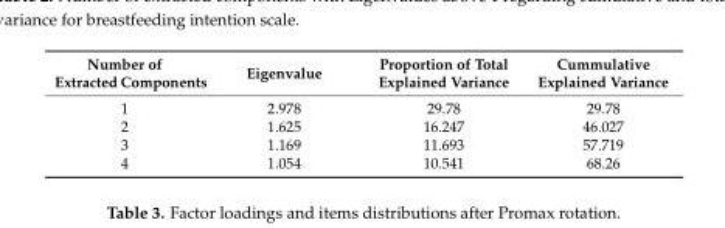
<table><thead><tr><td>Number of Extracted Components</td><td>Eigenvalue</td><td>Proportion of Total Explained Variance</td><td>Cummulative Explained Variance</td></tr></thead><tbody><tr><td>1</td><td>2.978</td><td>29.78</td><td>29.78</td></tr><tr><td>2</td><td>1.625</td><td>16.247</td><td>46.027</td></tr><tr><td>3</td><td>1.169</td><td>11.693</td><td>57.719</td></tr><tr><td>4</td><td>1.054</td><td>10.541</td><td>68.26</td></tr></tbody></table>